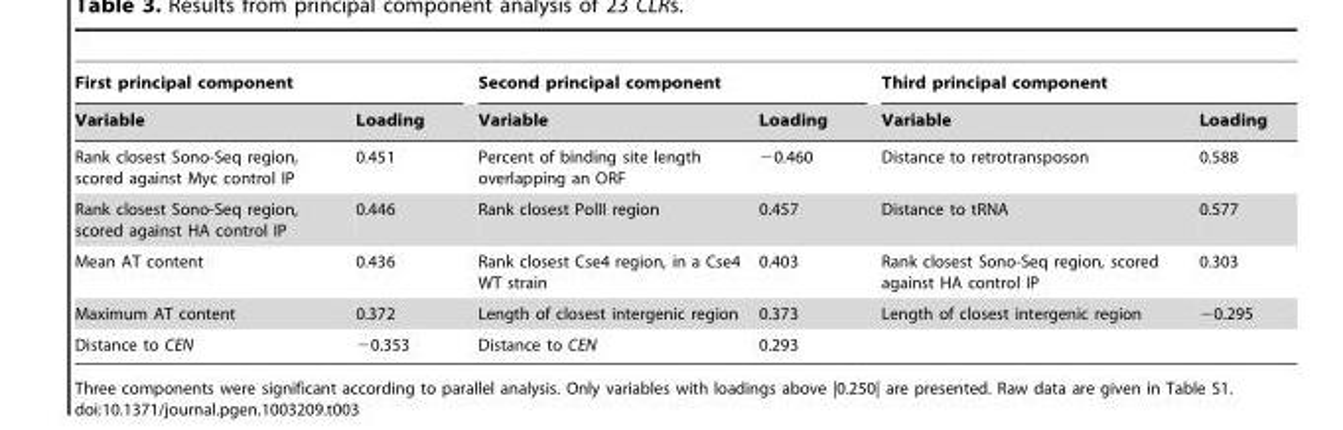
<table><thead><tr><td colspan="2">First principal component</td><td colspan="2">Second principal component</td><td colspan="2">Third principal component</td></tr><tr><td>Variable</td><td>Loading</td><td>Variable</td><td>Loading</td><td>Variable</td><td>Loading</td></tr></thead><tbody><tr><td>Rank closest Sono-Seq region, scored against Myc control IP</td><td>0.451</td><td>Percent of binding site length overlapping an ORF</td><td>−0.460</td><td>Distance to retrotransposon</td><td>0.588</td></tr><tr><td>Rank closest Sono-Seq region, scored against HA control IP</td><td>0.446</td><td>Rank closest PolII region</td><td>0.457</td><td>Distance to tRNA</td><td>0.577</td></tr><tr><td>Mean AT content</td><td>0.436</td><td>Rank closest Cse4 region, in a Cse4 WT strain</td><td>0.403</td><td>Rank closest Sono-Seq region, scored against HA control IP</td><td>0.303</td></tr><tr><td>Maximum AT content</td><td>0.372</td><td>Length of closest intergenic region</td><td>0.373</td><td>Length of closest intergenic region</td><td>−0.295</td></tr><tr><td>Distance to CEN</td><td>−0.353</td><td>Distance to CEN</td><td>0.293</td><td></td><td></td></tr></tbody></table>